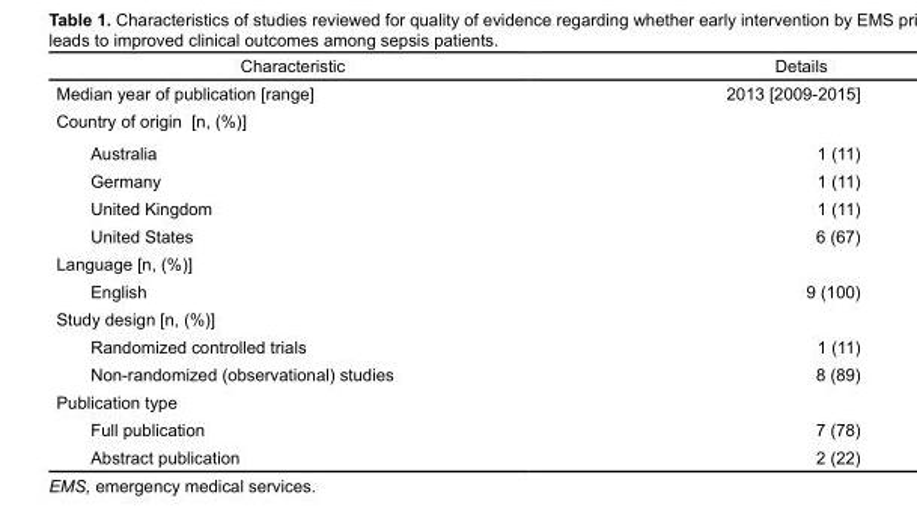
<table><thead><tr><td>Characteristic</td><td>Details</td></tr></thead><tbody><tr><td>Median year of publication [range]</td><td>2013 [2009-2015]</td></tr><tr><td colspan="2">Country of origin [n, (%)]</td></tr><tr><td>Australia</td><td>1 (11)</td></tr><tr><td>Germany</td><td>1 (11)</td></tr><tr><td>United Kingdom</td><td>1 (11)</td></tr><tr><td>United States</td><td>6 (67)</td></tr><tr><td colspan="2">Language [n, (%)]</td></tr><tr><td>English</td><td>9 (100)</td></tr><tr><td colspan="2">Study design [n, (%)]</td></tr><tr><td>Randomized controlled trials</td><td>1 (11)</td></tr><tr><td>Non-randomized (observational) studies</td><td>8 (89)</td></tr><tr><td colspan="2">Publication type</td></tr><tr><td>Full publication</td><td>7 (78)</td></tr><tr><td>Abstract publication</td><td>2 (22)</td></tr></tbody></table>